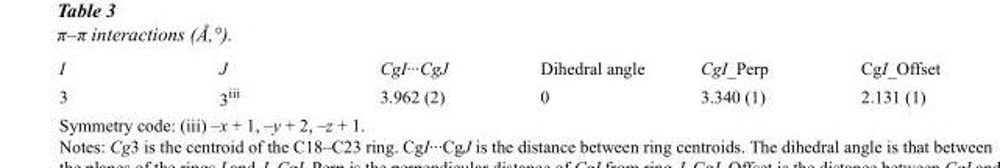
<table><tbody><tr><td>I</td><td>J</td><td>CgI···CgJ</td><td>Dihedral angle</td><td>CgI_Perp</td><td>CgI_Offset</td></tr><tr><td>3</td><td>3<sup>iii</sup></td><td>3.962 (2)</td><td>0</td><td>3.340 (1)</td><td>2.131 (1)</td></tr></tbody></table>